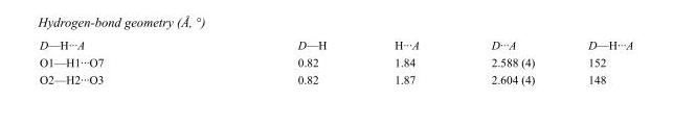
<table><tbody><tr><td>D—H···A</td><td>D—H</td><td>H···A</td><td>D···A</td><td>D—H···A</td></tr><tr><td>O1—H1···O7</td><td>0.82</td><td>1.84</td><td>2.588 (4)</td><td>152</td></tr><tr><td>O2—H2···O3</td><td>0.82</td><td>1.87</td><td>2.604 (4)</td><td>148</td></tr></tbody></table>